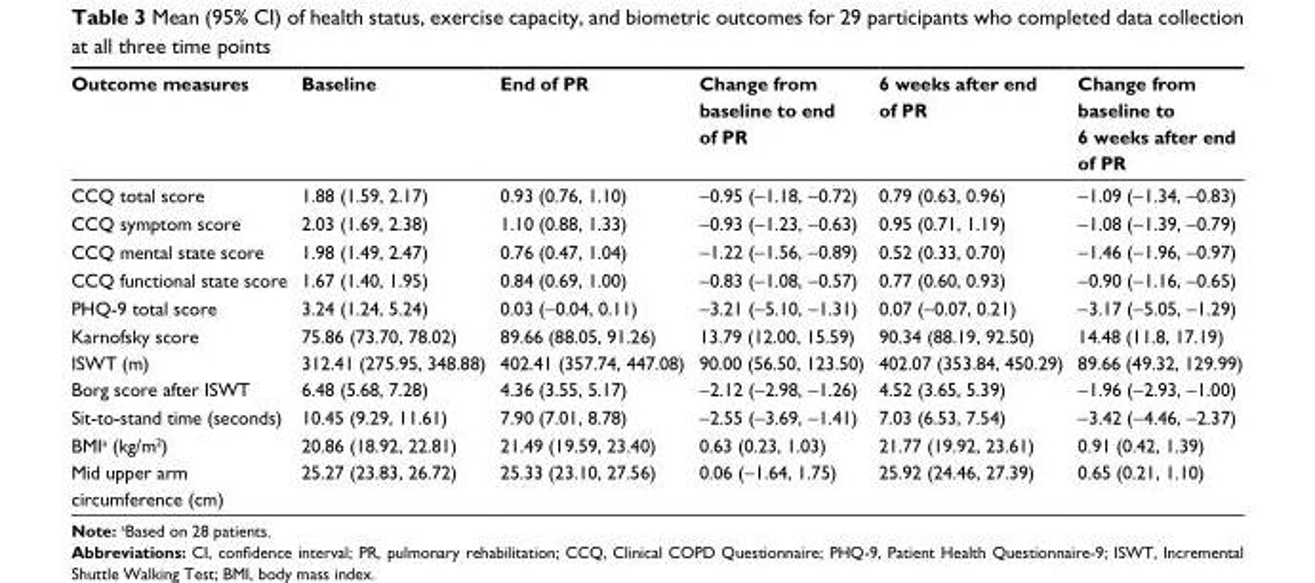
<table><thead><tr><td>Outcome measures</td><td>Baseline</td><td>End of PR</td><td>Change from baseline to end of PR</td><td>6 weeks after end of PR</td><td>Change from baseline to 6 weeks after end of PR</td></tr></thead><tbody><tr><td>CCQ total score</td><td>1.88 (1.59, 2.17)</td><td>0.93 (0.76, 1.10)</td><td>-0.95 (-1.18, -0.72)</td><td>0.79 (0.63, 0.96)</td><td>-1.09 (-1.34, -0.83)</td></tr><tr><td>CCQ symptom score</td><td>2.03 (1.69, 2.38)</td><td>1.10 (0.88, 1.33)</td><td>-0.93 (-1.23, -0.63)</td><td>0.95 (0.71, 1.19)</td><td>-1.08 (-1.39, -0.79)</td></tr><tr><td>CCQ mental state score</td><td>1.98 (1.49, 2.47)</td><td>0.76 (0.47, 1.04)</td><td>-1.22 (-1.56, -0.89)</td><td>0.52 (0.33, 0.70)</td><td>-1.46 (-1.96, -0.97)</td></tr><tr><td>CCQ functional state score</td><td>1.67 (1.40, 1.95)</td><td>0.84 (0.69, 1.00)</td><td>-0.83 (-1.08, -0.57)</td><td>0.77 (0.60, 0.93)</td><td>-0.90 (-1.16, -0.65)</td></tr><tr><td>PhQ-9 total score</td><td>3.24 (1.24, 5.24)</td><td>0.03 (-0.04, 0.11)</td><td>-3.21 (-5.10, -1.31)</td><td>0.07 (-0.07, 0.21)</td><td>-3.17 (-5.05, -1.29)</td></tr><tr><td>Karnofsky score</td><td>75.86 (73.70, 78.02)</td><td>89.66 (88.05, 91.26)</td><td>13.79 (12.00, 15.59)</td><td>90.34 (88.19, 92.50)</td><td>14.48 (11.8, 17.19)</td></tr><tr><td>IsWT (m)</td><td>312.41 (275.95, 348.88)</td><td>402.41 (357.74, 447.08)</td><td>90.00 (56.50, 123.50)</td><td>402.07 (353.84, 450.29)</td><td>89.66 (49.32, 129.99)</td></tr><tr><td>Borg score after IsWT</td><td>6.48 (5.68, 7.28)</td><td>4.36 (3.55, 5.17)</td><td>-2.12 (-2.98, -1.26)</td><td>4.52 (3.65, 5.39)</td><td>-1.96 (-2.93, -1.00)</td></tr><tr><td>sit-to-stand time (seconds)</td><td>10.45 (9.29, 11.61)</td><td>7.90 (7.01, 8.78)</td><td>-2.55 (-3.69, -1.41)</td><td>7.03 (6.53, 7.54)</td><td>-3.42 (-4.46, -2.37)</td></tr><tr><td>BMI<sup>a</sup> (kg/m<sup>2</sup>)</td><td>20.86 (18.92, 22.81)</td><td>21.49 (19.59, 23.40)</td><td>0.63 (0.23, 1.03)</td><td>21.77 (19.92, 23.61)</td><td>0.91 (0.42, 1.39)</td></tr><tr><td>Mid upper arm circumference (cm)</td><td>25.27 (23.83, 26.72)</td><td>25.33 (23.10, 27.56)</td><td>0.06 (-1.64, 1.75)</td><td>25.92 (24.46, 27.39)</td><td>0.65 (0.21, 1.10)</td></tr></tbody></table>